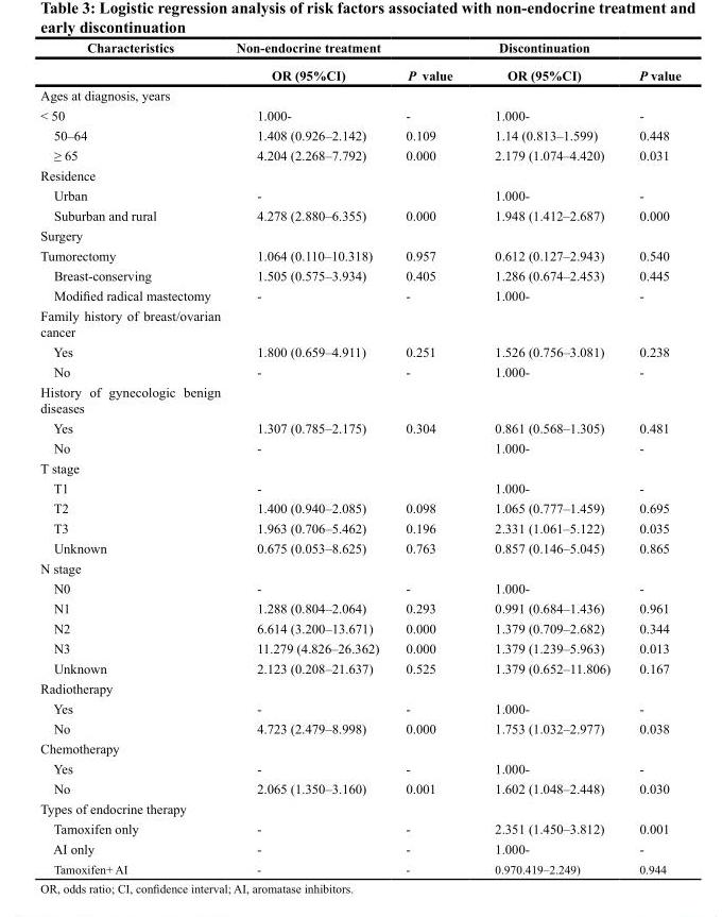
<table><thead><tr><td rowspan="2">Characteristics</td><td rowspan="2">Non-endocrine treatment OR (95%CI)</td><td rowspan="2">P value</td><td rowspan="2">Discontinuation OR (95%CI)</td><td rowspan="2">P value</td></tr><tr></tr></thead><tbody><tr><td colspan="5">Ages at diagnosis, years</td></tr><tr><td>&lt; 50</td><td>1.000-</td><td>-</td><td>1.000-</td><td>-</td></tr><tr><td>50–64</td><td>1.408 (0.926–2.142)</td><td>0.109</td><td>1.14 (0.813–1.599)</td><td>0.448</td></tr><tr><td>≥ 65</td><td>4.204 (2.268–7.792)</td><td>0.000</td><td>2.179 (1.074–4.420)</td><td>0.031</td></tr><tr><td colspan="5">Residence</td></tr><tr><td>Urban</td><td>-</td><td></td><td>1.000-</td><td>-</td></tr><tr><td>Suburban and rural</td><td>4.278 (2.880–6.355)</td><td>0.000</td><td>1.948 (1.412–2.687)</td><td>0.000</td></tr><tr><td colspan="5">Surgery</td></tr><tr><td>Tumorectomy</td><td>1.064 (0.110–10.318)</td><td>0.957</td><td>0.612 (0.127–2.943)</td><td>0.540</td></tr><tr><td>Breast-conserving</td><td>1.505 (0.575–3.934)</td><td>0.405</td><td>1.286 (0.674–2.453)</td><td>0.445</td></tr><tr><td>Modified radical mastectomy</td><td>-</td><td>-</td><td>1.000-</td><td>-</td></tr><tr><td colspan="5">Family history of breast/ovarian cancer</td></tr><tr><td>Yes</td><td>1.800 (0.659–4.911)</td><td>0.251</td><td>1.526 (0.756–3.081)</td><td>0.238</td></tr><tr><td>No</td><td>-</td><td>-</td><td>1.000-</td><td>-</td></tr><tr><td colspan="5">History of gynecologic benign diseases</td></tr><tr><td>Yes</td><td>1.307 (0.785–2.175)</td><td>0.304</td><td>0.861 (0.568–1.305)</td><td>0.481</td></tr><tr><td>No</td><td>-</td><td></td><td>1.000-</td><td>-</td></tr><tr><td colspan="5">T stage</td></tr><tr><td>T1</td><td>-</td><td></td><td>1.000-</td><td>-</td></tr><tr><td>T2</td><td>1.400 (0.940–2.085)</td><td>0.098</td><td>1.065 (0.777–1.459)</td><td>0.695</td></tr><tr><td>T3</td><td>1.963 (0.706–5.462)</td><td>0.196</td><td>2.331 (1.061–5.122)</td><td>0.035</td></tr><tr><td>Unknown</td><td>0.675 (0.053–8.625)</td><td>0.763</td><td>0.857 (0.146–5.045)</td><td>0.865</td></tr><tr><td colspan="5">N stage</td></tr><tr><td>N0</td><td>-</td><td>-</td><td>1.000-</td><td>-</td></tr><tr><td>N1</td><td>1.288 (0.804–2.064)</td><td>0.293</td><td>0.991 (0.684–1.436)</td><td>0.961</td></tr><tr><td>N2</td><td>6.614 (3.200–13.671)</td><td>0.000</td><td>1.379 (0.709–2.682)</td><td>0.344</td></tr><tr><td>N3</td><td>11.279 (4.826–26.362)</td><td>0.000</td><td>1.379 (1.239–5.963)</td><td>0.013</td></tr><tr><td>Unknown</td><td>2.123 (0.208–21.637)</td><td>0.525</td><td>1.379 (0.652–11.806)</td><td>0.167</td></tr><tr><td colspan="5">Radiotherapy</td></tr><tr><td>Yes</td><td>-</td><td>-</td><td>1.000-</td><td>-</td></tr><tr><td>No</td><td>4.723 (2.479–8.998)</td><td>0.000</td><td>1.753 (1.032–2.977)</td><td>0.038</td></tr><tr><td colspan="5">Chemotherapy</td></tr><tr><td>Yes</td><td>-</td><td>-</td><td>1.000-</td><td>-</td></tr><tr><td>No</td><td>2.065 (1.350–3.160)</td><td>0.001</td><td>1.602 (1.048–2.448)</td><td>0.030</td></tr><tr><td colspan="5">Types of endocrine therapy</td></tr><tr><td>Tamoxifen only</td><td>-</td><td>-</td><td>2.351 (1.450–3.812)</td><td>0.001</td></tr><tr><td>AI only</td><td>-</td><td>-</td><td>1.000-</td><td>-</td></tr><tr><td>Tamoxifen+ AI</td><td>-</td><td>-</td><td>0.970.419–2.249)</td><td>0.944</td></tr></tbody></table>